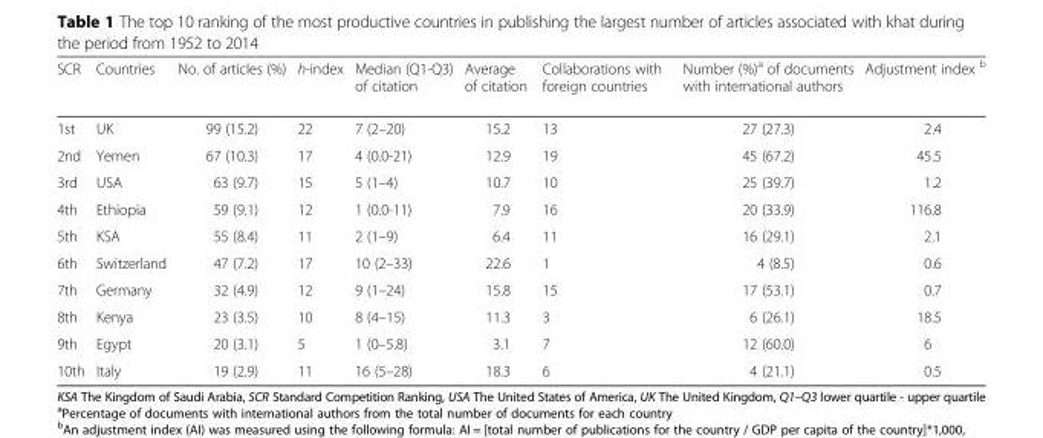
<table><thead><tr><td>SCR</td><td>Countries</td><td>No. of articles (%)</td><td>h-index</td><td>Median (Q1-Q3) of citation</td><td>Average of citation</td><td>Collaborations with foreign countries</td><td>Number (%)<sup>a</sup> of documents with international authors</td><td>Adjustment index <sup>b</sup></td></tr></thead><tbody><tr><td>1st</td><td>UK</td><td>99 (15.2)</td><td>22</td><td>7 (2–20)</td><td>15.2</td><td>13</td><td>27 (27.3)</td><td>2.4</td></tr><tr><td>2nd</td><td>Yemen</td><td>67 (10.3)</td><td>17</td><td>4 (0.0-21)</td><td>12.9</td><td>19</td><td>45 (67.2)</td><td>45.5</td></tr><tr><td>3rd</td><td>USA</td><td>63 (9.7)</td><td>15</td><td>5 (1–4)</td><td>10.7</td><td>10</td><td>25 (39.7)</td><td>1.2</td></tr><tr><td>4th</td><td>Ethiopia</td><td>59 (9.1)</td><td>12</td><td>1 (0.0-11)</td><td>7.9</td><td>16</td><td>20 (33.9)</td><td>116.8</td></tr><tr><td>5th</td><td>KSA</td><td>55 (8.4)</td><td>11</td><td>2 (1–9)</td><td>6.4</td><td>11</td><td>16 (29.1)</td><td>2.1</td></tr><tr><td>6th</td><td>Switzerland</td><td>47 (7.2)</td><td>17</td><td>10 (2–33)</td><td>22.6</td><td>1</td><td>4 (8.5)</td><td>0.6</td></tr><tr><td>7th</td><td>Germany</td><td>32 (4.9)</td><td>12</td><td>9 (1–24)</td><td>15.8</td><td>15</td><td>17 (53.1)</td><td>0.7</td></tr><tr><td>8th</td><td>Kenya</td><td>23 (3.5)</td><td>10</td><td>8 (4–15)</td><td>11.3</td><td>3</td><td>6 (26.1)</td><td>18.5</td></tr><tr><td>9th</td><td>Egypt</td><td>20 (3.1)</td><td>5</td><td>1 (0–5.8)</td><td>3.1</td><td>7</td><td>12 (60.0)</td><td>6</td></tr><tr><td>10th</td><td>Italy</td><td>19 (2.9)</td><td>11</td><td>16 (5–28)</td><td>18.3</td><td>6</td><td>4 (21.1)</td><td>0.5</td></tr></tbody></table>